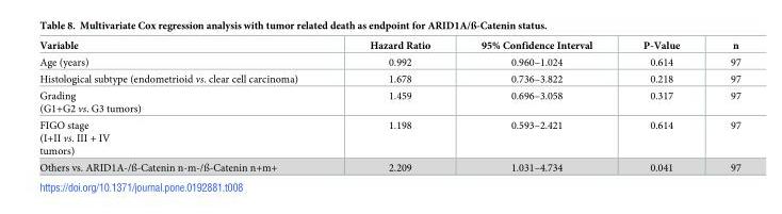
<table><thead><tr><td>Variable</td><td>Hazard Ratio</td><td>95% Confidence Interval</td><td>P-Value</td><td>n</td></tr></thead><tbody><tr><td>Age (years)</td><td>0.992</td><td>0.960–1.024</td><td>0.614</td><td>97</td></tr><tr><td>Histological subtype (endometrioid vs. clear cell carcinoma)</td><td>1.678</td><td>0.736–3.822</td><td>0.218</td><td>97</td></tr><tr><td>Grading (G1+G2 vs. G3 tumors)</td><td>1.459</td><td>0.696–3.058</td><td>0.317</td><td>97</td></tr><tr><td>FIGO stage (I+II vs. III + IV tumors)</td><td>1.198</td><td>0.593–2.421</td><td>0.614</td><td>97</td></tr><tr><td>Others vs. ARID1A-/ß-Catenin n-m-/ß-Catenin n+m+</td><td>2.209</td><td>1.031–4.734</td><td>0.041</td><td>97</td></tr></tbody></table>